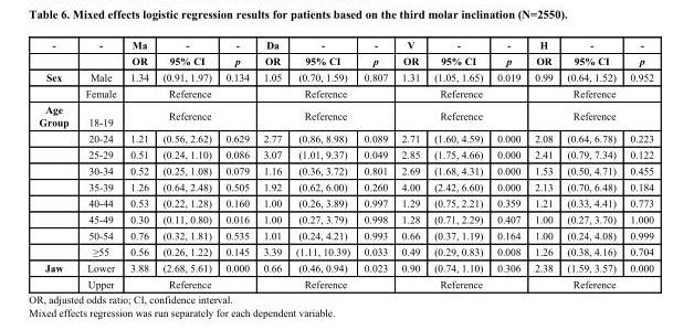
<table><thead><tr><td rowspan="2">-</td><td rowspan="2">-</td><td rowspan="2">Ma OR</td><td rowspan="2">- 95% CI</td><td rowspan="2">- p</td><td rowspan="2">Da OR</td><td rowspan="2">- 95% CI</td><td rowspan="2">- p</td><td rowspan="2">V OR</td><td rowspan="2">- 95% CI</td><td rowspan="2">- p</td><td rowspan="2">H OR</td><td rowspan="2">- 95% CI</td><td rowspan="2">- p</td></tr><tr></tr></thead><tbody><tr><td rowspan="2">Sex</td><td>Male</td><td>1.34</td><td>(0.91, 1.97)</td><td>0.134</td><td>1.05</td><td>(0.70, 1.59)</td><td>0.807</td><td>1.31</td><td>(1.05, 1.65)</td><td>0.019</td><td>0.99</td><td>(0.64, 1.52)</td><td>0.952</td></tr><tr><td>Female</td><td colspan="3">Reference</td><td colspan="3">Reference</td><td colspan="3">Reference</td><td colspan="3">Reference</td></tr><tr><td rowspan="9">Age Group</td><td>18-19</td><td colspan="3">Reference</td><td colspan="3">Reference</td><td colspan="3">Reference</td><td colspan="3">Reference</td></tr><tr><td>20-24</td><td>1.21</td><td>(0.56, 2.62)</td><td>0.629</td><td>2.77</td><td>(0.86, 8.98)</td><td>0.089</td><td>2.71</td><td>(1.60, 4.59)</td><td>0.000</td><td>2.08</td><td>(0.64, 6.78)</td><td>0.223</td></tr><tr><td>25-29</td><td>0.51</td><td>(0.24, 1.10)</td><td>0.086</td><td>3.07</td><td>(1.01, 9.37)</td><td>0.049</td><td>2.85</td><td>(1.75, 4.66)</td><td>0.000</td><td>2.41</td><td>(0.79, 7.34)</td><td>0.122</td></tr><tr><td>30-34</td><td>0.52</td><td>(0.25, 1.08)</td><td>0.079</td><td>1.16</td><td>(0.36, 3.72)</td><td>0.801</td><td>2.69</td><td>(1.68, 4.31)</td><td>0.000</td><td>1.53</td><td>(0.50, 4.71)</td><td>0.455</td></tr><tr><td>35-39</td><td>1.26</td><td>(0.64, 2.48)</td><td>0.505</td><td>1.92</td><td>(0.62, 6.00)</td><td>0.260</td><td>4.00</td><td>(2.42, 6.60)</td><td>0.000</td><td>2.13</td><td>(0.70, 6.48)</td><td>0.184</td></tr><tr><td>40-44</td><td>0.53</td><td>(0.22, 1.28)</td><td>0.160</td><td>1.00</td><td>(0.26, 3.89)</td><td>0.997</td><td>1.29</td><td>(0.75, 2.21)</td><td>0.359</td><td>1.21</td><td>(0.33, 4.41)</td><td>0.773</td></tr><tr><td>45-49</td><td>0.30</td><td>(0.11, 0.80)</td><td>0.016</td><td>1.00</td><td>(0.27, 3.79)</td><td>0.998</td><td>1.28</td><td>(0.71, 2.29)</td><td>0.407</td><td>1.00</td><td>(0.27, 3.70)</td><td>1.000</td></tr><tr><td>50-54</td><td>0.76</td><td>(0.32, 1.81)</td><td>0.535</td><td>1.01</td><td>(0.24, 4.21)</td><td>0.993</td><td>0.66</td><td>(0.37, 1.19)</td><td>0.164</td><td>1.00</td><td>(0.24, 4.08)</td><td>0.999</td></tr><tr><td>≥55</td><td>0.56</td><td>(0.26, 1.22)</td><td>0.145</td><td>3.39</td><td>(1.11, 10.39)</td><td>0.033</td><td>0.49</td><td>(0.29, 0.83)</td><td>0.008</td><td>1.26</td><td>(0.38, 4.16)</td><td>0.704</td></tr><tr><td rowspan="2">Jaw</td><td>Lower</td><td>3.88</td><td>(2.68, 5.61)</td><td>0.000</td><td>0.66</td><td>(0.46, 0.94)</td><td>0.023</td><td>0.90</td><td>(0.74, 1.10)</td><td>0.306</td><td>2.38</td><td>(1.59, 3.57)</td><td>0.000</td></tr><tr><td>Upper</td><td colspan="3">Reference</td><td colspan="3">Reference</td><td colspan="3">Reference</td><td colspan="3">Reference</td></tr></tbody></table>